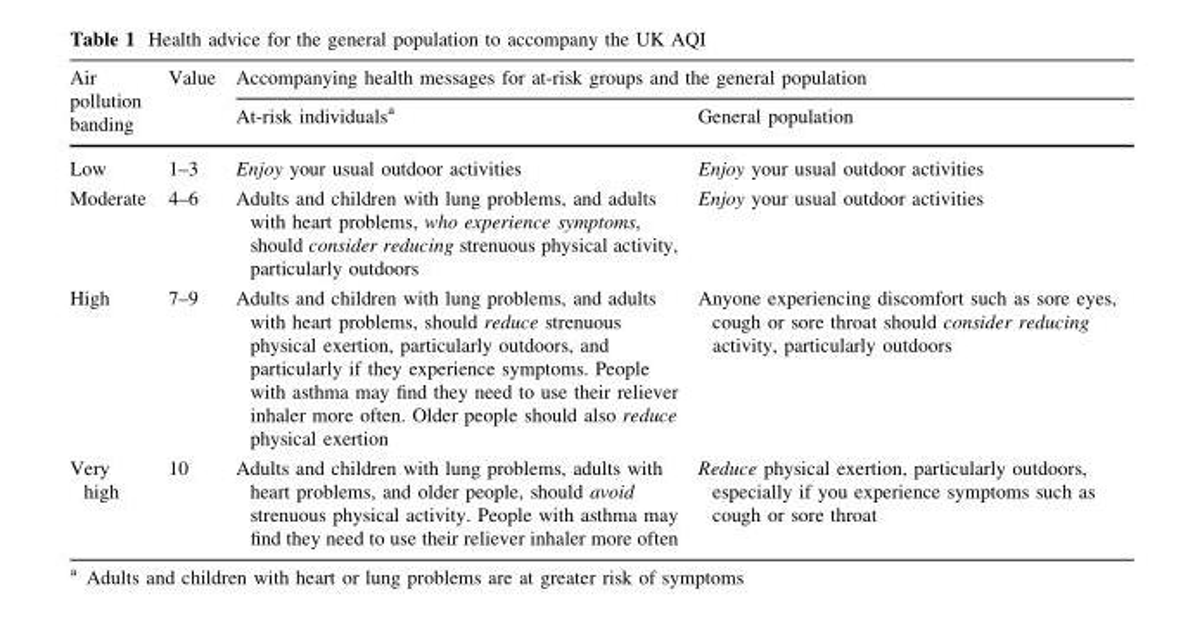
<table><thead><tr><td rowspan="2">Air pollution banding</td><td rowspan="2">Value</td><td colspan="2">Accompanying health messages for at-risk groups and the general population</td></tr><tr><td>At-risk individuals<sup>a</sup></td><td>General population</td></tr></thead><tbody><tr><td>Low</td><td>1–3</td><td>Enjoy your usual outdoor activities</td><td>Enjoy your usual outdoor activities</td></tr><tr><td>Moderate</td><td>4–6</td><td>Adults and children with lung problems, and adults with heart problems, who experience symptoms, should consider reducing strenuous physical activity, particularly outdoors</td><td>Enjoy your usual outdoor activities</td></tr><tr><td>High</td><td>7–9</td><td>Adults and children with lung problems, and adults with heart problems, should reduce strenuous physical exertion, particularly outdoors, and particularly if they experience symptoms. People with asthma may find they need to use their reliever inhaler more often. Older people should also reduce physical exertion</td><td>Anyone experiencing discomfort such as sore eyes, cough or sore throat should consider reducing activity, particularly outdoors</td></tr><tr><td>Very high</td><td>10</td><td>Adults and children with lung problems, adults with heart problems, and older people, should avoid strenuous physical activity. People with asthma may find they need to use their reliever inhaler more often</td><td>Reduce physical exertion, particularly outdoors, especially if you experience symptoms such as cough or sore throat</td></tr></tbody></table>